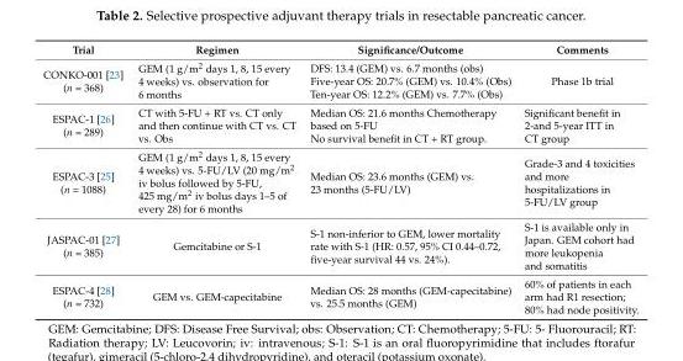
<table><thead><tr><td>Trial</td><td>Regimen</td><td>Significance/Outcome</td><td>Comments</td></tr></thead><tbody><tr><td>CONKO-001 [23] (n = 368)</td><td>GEM (1 g/m<sup>2</sup> days 1, 8, 15 every 4 weeks) vs. observation for 6 months</td><td>DFS: 13.4 (GEM) vs. 6.7 months (obs) Five-year OS: 20.7% (GEM) vs. 10.4% (Obs) Ten-year OS: 12.2% (GEM) vs. 7.7% (Obs)</td><td>Phase 1b trial</td></tr><tr><td>ESPAC-1 [26] (n = 289)</td><td>CT with 5-FU + RT vs. CT only and then continue with CT vs. CT vs. Obs</td><td>Median OS: 21.6 months Chemotherapy based on 5-FU No survival benefit in CT + RT group.</td><td>Significant benefit in 2-and 5-year ITT in CT group</td></tr><tr><td>ESPAC-3 [25] (n = 1088)</td><td>GEM (1 g/m<sup>2</sup> days 1, 8, 15 every 4 weeks) vs. 5-FU/LV (20 mg/m<sup>2</sup> iv bolus followed by 5-FU, 425 mg/m<sup>2</sup> iv bolus days 1–5 of every 28) for 6 months</td><td>Median OS: 23.6 months (GEM) vs. 23 months (5-FU/LV)</td><td>Grade-3 and 4 toxicities and more hospitalizations in 5-FU/LV group</td></tr><tr><td>JASPAC-01 [27] (n = 385)</td><td>Gemcitabine or S-1</td><td>S-1 non-inferior to GEM, lower mortality rate with S-1 (HR: 0.57, 95% CI 0.44–0.72, five-year survival 44 vs. 24%).</td><td>S-1 is available only in Japan. GEM cohort had more leukopenia and somatitis</td></tr><tr><td>ESPAC-4 [28] (n = 732)</td><td>GEM vs. GEM-capecitabine</td><td>Median OS: 28 months (GEM-capecitabine) vs. 25.5 months (GEM)</td><td>60% of patients in each arm had R1 resection; 80% had node positivity.</td></tr></tbody></table>